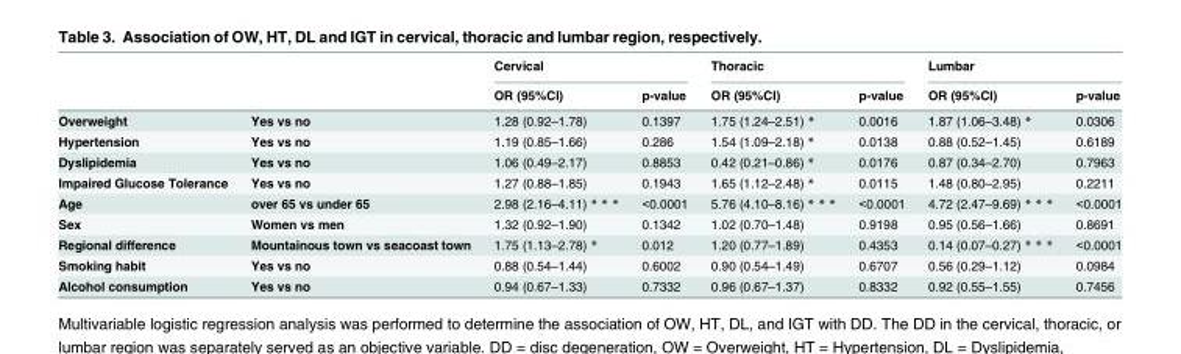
<table><thead><tr><td rowspan="2"></td><td rowspan="2"></td><td colspan="2">Cervical</td><td colspan="2">Thoracic</td><td colspan="2">Lumbar</td></tr><tr><td>OR (95%CI)</td><td>p-value</td><td>OR (95%CI)</td><td>p-value</td><td>OR (95%CI)</td><td>p-value</td></tr></thead><tbody><tr><td>Overweight</td><td>Yes vs no</td><td>1.28 (0.92–1.78)</td><td>0.1397</td><td>1.75 (1.24–2.51) *</td><td>0.0016</td><td>1.87 (1.06–3.48) *</td><td>0.0306</td></tr><tr><td>Hypertension</td><td>Yes vs no</td><td>1.19 (0.85–1.66)</td><td>0.286</td><td>1.54 (1.09–2.18) *</td><td>0.0138</td><td>0.88 (0.52–1.45)</td><td>0.6189</td></tr><tr><td>Dyslipidemia</td><td>Yes vs no</td><td>1.06 (0.49–2.17)</td><td>0.8853</td><td>0.42 (0.21–0.86) *</td><td>0.0176</td><td>0.87 (0.34–2.70)</td><td>0.7963</td></tr><tr><td>Impaired Glucose Tolerance</td><td>Yes vs no</td><td>1.27 (0.88–1.85)</td><td>0.1943</td><td>1.65 (1.12–2.48) *</td><td>0.0115</td><td>1.48 (0.80–2.95)</td><td>0.2211</td></tr><tr><td>Age</td><td>over 65 vs under 65</td><td>2.98 (2.16–4.11) * * *</td><td>&lt;0.0001</td><td>5.76 (4.10–8.16) * * *</td><td>&lt;0.0001</td><td>4.72 (2.47–9.69) * * *</td><td>&lt;0.0001</td></tr><tr><td>Sex</td><td>Women vs men</td><td>1.32 (0.92–1.90)</td><td>0.1342</td><td>1.02 (0.70–1.48)</td><td>0.9198</td><td>0.95 (0.56–1.66)</td><td>0.8691</td></tr><tr><td>Regional difference</td><td>Mountainous town vs seacoast town</td><td>1.75 (1.13–2.78) *</td><td>0.012</td><td>1.20 (0.77–1.89)</td><td>0.4353</td><td>0.14 (0.07–0.27) * * *</td><td>&lt;0.0001</td></tr><tr><td>Smoking habit</td><td>Yes vs no</td><td>0.88 (0.54–1.44)</td><td>0.6002</td><td>0.90 (0.54–1.49)</td><td>0.6707</td><td>0.56 (0.29–1.12)</td><td>0.0984</td></tr><tr><td>Alcohol consumption</td><td>Yes vs no</td><td>0.94 (0.67–1.33)</td><td>0.7332</td><td>0.96 (0.67–1.37)</td><td>0.8332</td><td>0.92 (0.55–1.55)</td><td>0.7456</td></tr></tbody></table>